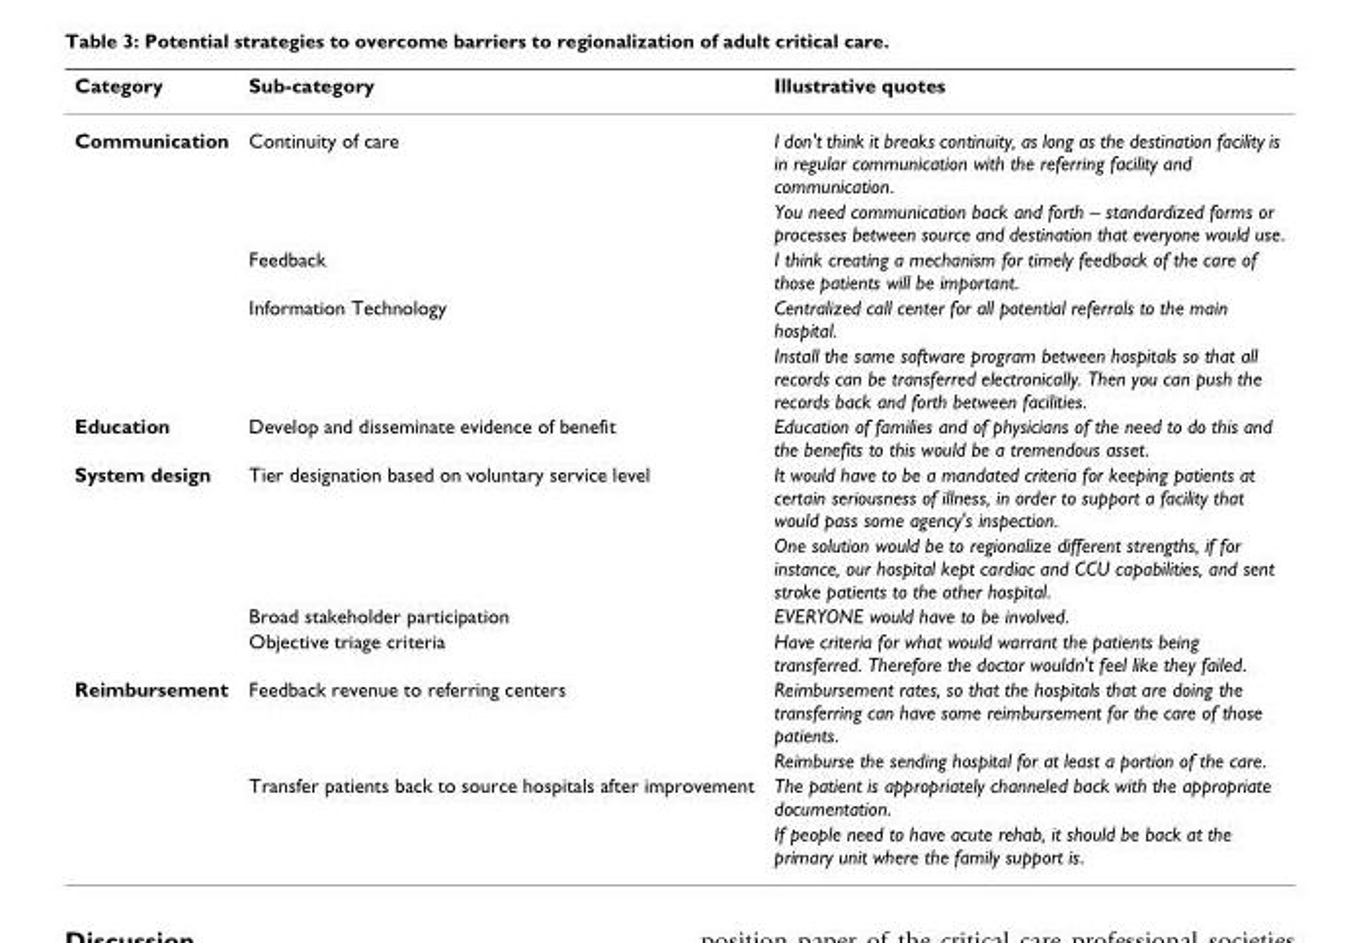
<table><thead><tr><td>Category</td><td>Sub-category</td><td>Illustrative quotes</td></tr></thead><tbody><tr><td rowspan="5">Communication</td><td>Continuity of care</td><td>I don&#x27;t think it breaks continuity, as long as the destination facility is in regular communication with the referring facility and communication.</td></tr><tr><td></td><td>You need communication back and forth – standardized forms or processes between source and destination that everyone would use.</td></tr><tr><td>Feedback</td><td>I think creating a mechanism for timely feedback of the care of those patients will be important.</td></tr><tr><td>Information Technology</td><td>Centralized call center for all potential referrals to the main hospital.</td></tr><tr><td></td><td>Install the same software program between hospitals so that all records can be transferred electronically. Then you can push the records back and forth between facilities.</td></tr><tr><td>Education</td><td>Develop and disseminate evidence of benefit</td><td>Education of families and of physicians of the need to do this and the benefits to this would be a tremendous asset.</td></tr><tr><td rowspan="4">System design</td><td>Tier designation based on voluntary service level</td><td>It would have to be a mandated criteria for keeping patients at certain seriousness of illness, in order to support a facility that would pass some agency&#x27;s inspection.</td></tr><tr><td></td><td>One solution would be to regionalize different strengths, if for instance, our hospital kept cardiac and CCU capabilities, and sent stroke patients to the other hospital.</td></tr><tr><td>Broad stakeholder participation</td><td>EVERYONE would have to be involved.</td></tr><tr><td>Objective triage criteria</td><td>Have criteria for what would warrant the patients being transferred. Therefore the doctor wouldn&#x27;t feel like they failed.</td></tr><tr><td rowspan="4">Reimbursement</td><td>Feedback revenue to referring centers</td><td>Reimbursement rates, so that the hospitals that are doing the transferring can have some reimbursement for the care of those patients.</td></tr><tr><td></td><td>Reimburse the sending hospital for at least a portion of the care.</td></tr><tr><td>Transfer patients back to source hospitals after improvement</td><td>The patient is appropriately channeled back with the appropriate documentation.</td></tr><tr><td></td><td>If people need to have acute rehab, it should be back at the primary unit where the family support is.</td></tr></tbody></table>